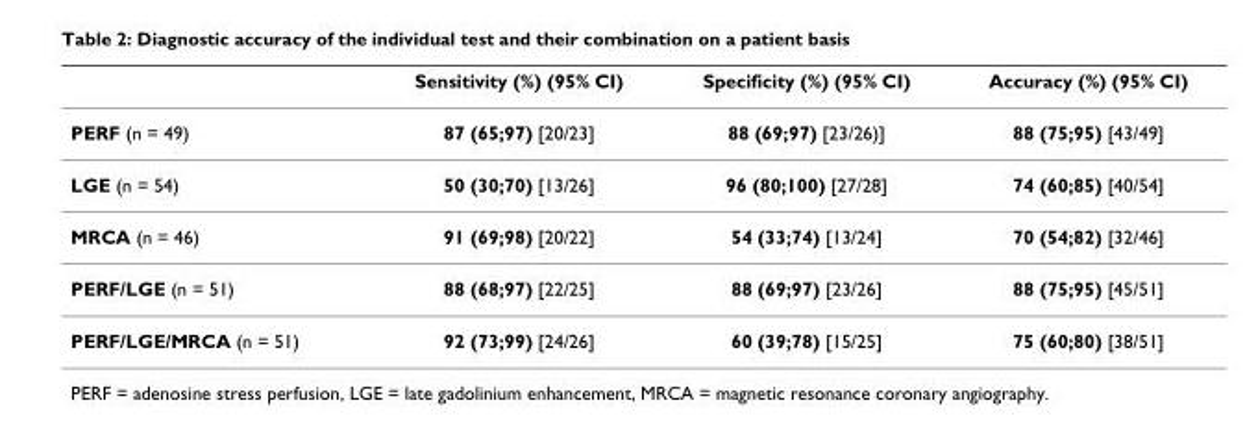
<table><thead><tr><td></td><td>Sensitivity (%) (95% CI)</td><td>Specificity (%) (95% CI)</td><td>Accuracy (%) (95% CI)</td></tr></thead><tbody><tr><td>PERF (n = 49)</td><td>87 (65;97) [20/23]</td><td>88 (69;97) [23/26)]</td><td>88 (75;95) [43/49]</td></tr><tr><td>LGE (n = 54)</td><td>50 (30;70) [13/26]</td><td>96 (80;100) [27/28]</td><td>74 (60;85) [40/54]</td></tr><tr><td>MRCA (n = 46)</td><td>91 (69;98) [20/22]</td><td>54 (33;74) [13/24]</td><td>70 (54;82) [32/46]</td></tr><tr><td>PERF/LGE (n = 51)</td><td>88 (68;97) [22/25]</td><td>88 (69;97) [23/26]</td><td>88 (75;95) [45/51]</td></tr><tr><td>PERF/LGE/MRCA (n = 51)</td><td>92 (73;99) [24/26]</td><td>60 (39;78) [15/25]</td><td>75 (60;80) [38/51]</td></tr></tbody></table>